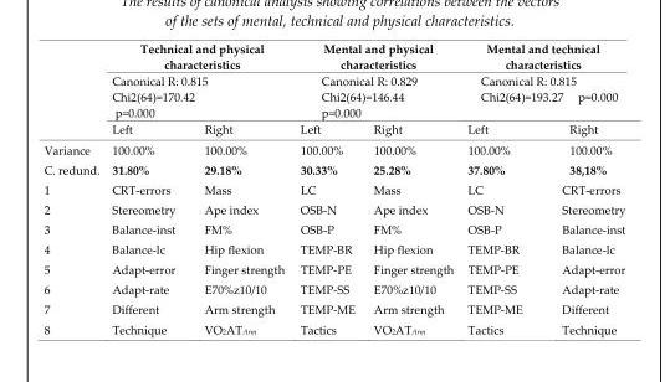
<table><thead><tr><td rowspan="3"></td><td rowspan="2" colspan="2">Technical and physical characteristics Canonical R: 0.815 Chi2(64)=170.42 p=0.000</td><td rowspan="2" colspan="2">Mental and physical characteristics Canonical R: 0.829 Chi2(64)=146.44 p=0.000</td><td rowspan="2" colspan="2">Mental and technical characteristics Canonical R: 0.815 Chi2(64)=193.27 p=0.000</td></tr><tr></tr><tr><td>Left</td><td>Right</td><td>Left</td><td>Right</td><td>Left</td><td>Right</td></tr></thead><tbody><tr><td>Variance</td><td>100.00%</td><td>100.00%</td><td>100.00%</td><td>100.00%</td><td>100.00%</td><td>100.00%</td></tr><tr><td>C. redund.</td><td>31.80%</td><td>29.18%</td><td>30.33%</td><td>25.28%</td><td>37.80%</td><td>38,18%</td></tr><tr><td>1</td><td>CRT-errors</td><td>Mass</td><td>LC</td><td>Mass</td><td>LC</td><td>CRT-errors</td></tr><tr><td>2</td><td>Stereometry</td><td>Ape index</td><td>OSB-N</td><td>Ape index</td><td>OSB-N</td><td>Stereometry</td></tr><tr><td>3</td><td>Balance-inst</td><td>FM%</td><td>OSB-P</td><td>FM%</td><td>OSB-P</td><td>Balance-inst</td></tr><tr><td>4</td><td>Balance-lc</td><td>Hip flexion</td><td>TEMP-BR</td><td>Hip flexion</td><td>TEMP-BR</td><td>Balance-lc</td></tr><tr><td>5</td><td>Adapt-error</td><td>Finger strength</td><td>TEMP-PE</td><td>Finger strength</td><td>TEMP-PE</td><td>Adapt-error</td></tr><tr><td>6</td><td>Adapt-rate</td><td>E70%z10/10</td><td>TEMP-SS</td><td>E70%z10/10</td><td>TEMP-SS</td><td>Adapt-rate</td></tr><tr><td>7</td><td>Different</td><td>Arm strength</td><td>TEMP-ME</td><td>Arm strength</td><td>TEMP-ME</td><td>Different</td></tr><tr><td>8</td><td>Technique</td><td>VO<sub>2</sub>AT<sub>Arm</sub></td><td>Tactics</td><td>VO<sub>2</sub>AT<sub>Arm</sub></td><td>Tactics</td><td>Technique</td></tr></tbody></table>